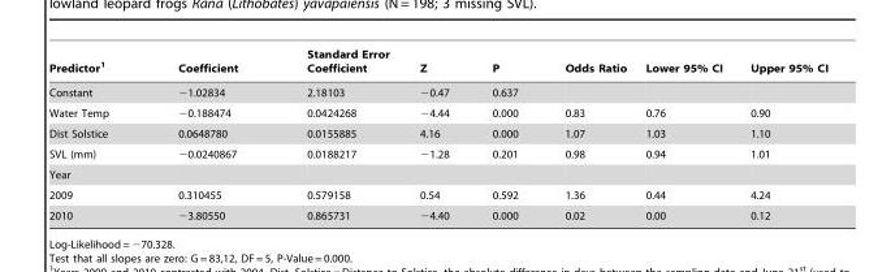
<table><thead><tr><td>Predictor<sup>1</sup></td><td>Coefficient</td><td>Standard Error Coefficient</td><td>Z</td><td>P</td><td>Odds Ratio</td><td>Lower 95% CI</td><td>Upper 95% CI</td></tr></thead><tbody><tr><td>Constant</td><td>−1.02834</td><td>2.18103</td><td>−0.47</td><td>0.637</td><td></td><td></td><td></td></tr><tr><td>Water Temp</td><td>−0.188474</td><td>0.0424268</td><td>−4.44</td><td>0.000</td><td>0.83</td><td>0.76</td><td>0.90</td></tr><tr><td>Dist Solstice</td><td>0.0648780</td><td>0.0155885</td><td>4.16</td><td>0.000</td><td>1.07</td><td>1.03</td><td>1.10</td></tr><tr><td>SVL (mm)</td><td>−0.0240867</td><td>0.0188217</td><td>−1.28</td><td>0.201</td><td>0.98</td><td>0.94</td><td>1.01</td></tr><tr><td colspan="8">Year</td></tr><tr><td>2009</td><td>0.310455</td><td>0.579158</td><td>0.54</td><td>0.592</td><td>1.36</td><td>0.44</td><td>4.24</td></tr><tr><td>2010</td><td>−3.80550</td><td>0.865731</td><td>−4.40</td><td>0.000</td><td>0.02</td><td>0.00</td><td>0.12</td></tr></tbody></table>